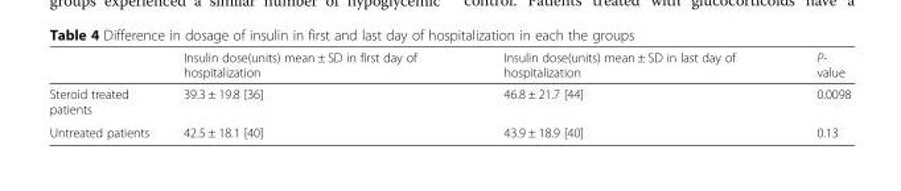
<table><thead><tr><td></td><td>Insulin dose(units) mean ± SD in first day of hospitalization</td><td>Insulin dose(units) mean ± SD in last day of hospitalization</td><td>P- value</td></tr></thead><tbody><tr><td>Steroid treated patients</td><td>39.3 ± 19.8 [36]</td><td>46.8 ± 21.7 [44]</td><td>0.0098</td></tr><tr><td>Untreated patients</td><td>42.5 ± 18.1 [40]</td><td>43.9 ± 18.9 [40]</td><td>0.13</td></tr></tbody></table>